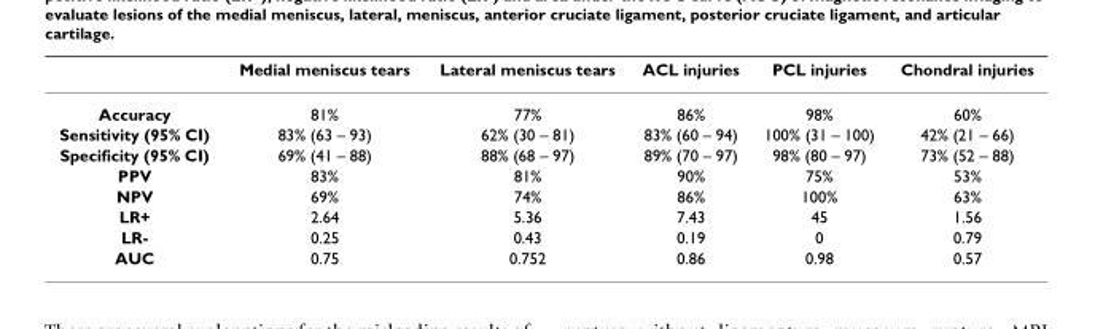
<table><thead><tr><td></td><td>Medial meniscus tears</td><td>Lateral meniscus tears</td><td>ACL injuries</td><td>PCL injuries</td><td>Chondral injuries</td></tr></thead><tbody><tr><td>Accuracy</td><td>81%</td><td>77%</td><td>86%</td><td>98%</td><td>60%</td></tr><tr><td>Sensitivity (95% CI)</td><td>83% (63 – 93)</td><td>62% (30 – 81)</td><td>83% (60 – 94)</td><td>100% (31 – 100)</td><td>42% (21 – 66)</td></tr><tr><td>Specificity (95% CI)</td><td>69% (41 – 88)</td><td>88% (68 – 97)</td><td>89% (70 – 97)</td><td>98% (80 – 97)</td><td>73% (52 – 88)</td></tr><tr><td>PPV</td><td>83%</td><td>81%</td><td>90%</td><td>75%</td><td>53%</td></tr><tr><td>NPV</td><td>69%</td><td>74%</td><td>86%</td><td>100%</td><td>63%</td></tr><tr><td>LR+</td><td>2.64</td><td>5.36</td><td>7.43</td><td>45</td><td>1.56</td></tr><tr><td>LR-</td><td>0.25</td><td>0.43</td><td>0.19</td><td>0</td><td>0.79</td></tr><tr><td>AUC</td><td>0.75</td><td>0.752</td><td>0.86</td><td>0.98</td><td>0.57</td></tr></tbody></table>